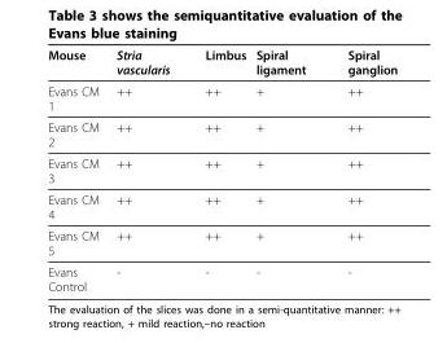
<table><thead><tr><td>Mouse</td><td>Stria vascularis</td><td>Limbus</td><td>Spiral ligament</td><td>Spiral ganglion</td></tr></thead><tbody><tr><td>Evans CM 1</td><td>++</td><td>++</td><td>+</td><td>++</td></tr><tr><td>Evans CM 2</td><td>++</td><td>++</td><td>+</td><td>++</td></tr><tr><td>Evans CM 3</td><td>++</td><td>++</td><td>+</td><td>++</td></tr><tr><td>Evans CM 4</td><td>++</td><td>++</td><td>+</td><td>++</td></tr><tr><td>Evans CM 5</td><td>++</td><td>++</td><td>+</td><td>++</td></tr><tr><td>Evans Control</td><td>-</td><td>-</td><td>-</td><td>-</td></tr></tbody></table>